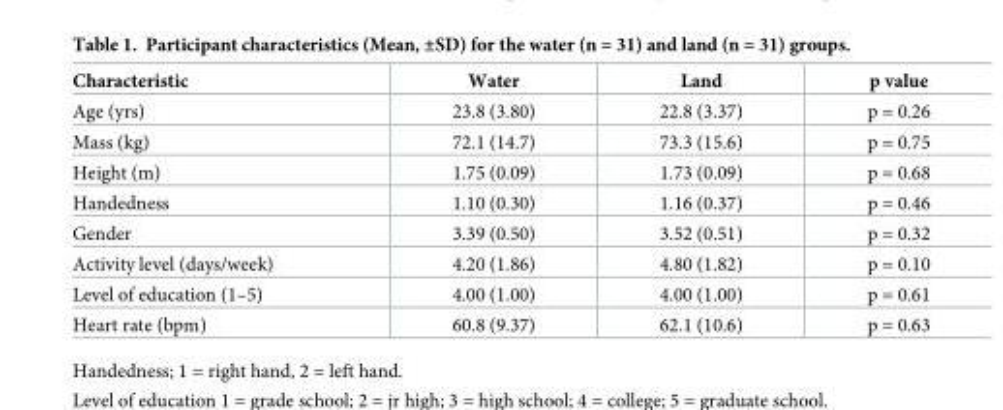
<table><thead><tr><td>Characteristic</td><td>Water</td><td>Land</td><td>p value</td></tr></thead><tbody><tr><td>Age (yrs)</td><td>23.8 (3.80)</td><td>22.8 (3.37)</td><td>p = 0.26</td></tr><tr><td>Mass (kg)</td><td>72.1 (14.7)</td><td>73.3 (15.6)</td><td>p = 0.75</td></tr><tr><td>Height (m)</td><td>1.75 (0.09)</td><td>1.73 (0.09)</td><td>p = 0.68</td></tr><tr><td>Handedness</td><td>1.10 (0.30)</td><td>1.16 (0.37)</td><td>p = 0.46</td></tr><tr><td>Gender</td><td>3.39 (0.50)</td><td>3.52 (0.51)</td><td>p = 0.32</td></tr><tr><td>Activity level (days/week)</td><td>4.20 (1.86)</td><td>4.80 (1.82)</td><td>p = 0.10</td></tr><tr><td>Level of education (1–5)</td><td>4.00 (1.00)</td><td>4.00 (1.00)</td><td>p = 0.61</td></tr><tr><td>Heart rate (bpm)</td><td>60.8 (9.37)</td><td>62.1 (10.6)</td><td>p = 0.63</td></tr></tbody></table>